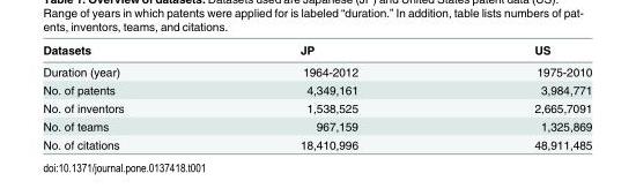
<table><thead><tr><td>Datasets</td><td>JP</td><td>US</td></tr></thead><tbody><tr><td>Duration (year)</td><td>1964-2012</td><td>1975-2010</td></tr><tr><td>No. of patents</td><td>4,349,161</td><td>3,984,771</td></tr><tr><td>No. of inventors</td><td>1,538,525</td><td>2,665,7091</td></tr><tr><td>No. of teams</td><td>967,159</td><td>1,325,869</td></tr><tr><td>No. of citations</td><td>18,410,996</td><td>48,911,485</td></tr></tbody></table>